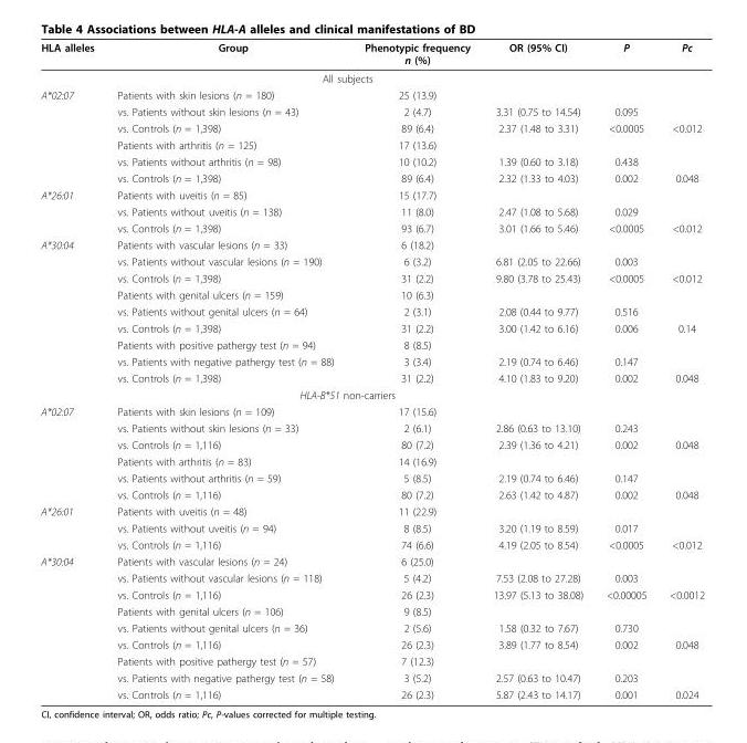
<table><thead><tr><td>HLA alleles</td><td>Group</td><td>Phenotypic frequency n (%)</td><td>OR (95% CI)</td><td>P</td><td>Pc</td></tr></thead><tbody><tr><td colspan="6">All subjects</td></tr><tr><td rowspan="6">A*02:07</td><td>Patients with skin lesions (n = 180)</td><td>25 (13.9)</td><td></td><td></td><td></td></tr><tr><td>vs. Patients without skin lesions (n = 43)</td><td>2 (4.7)</td><td>3.31 (0.75 to 14.54)</td><td>0.095</td><td></td></tr><tr><td>vs. Controls (n = 1,398)</td><td>89 (6.4)</td><td>2.37 (1.48 to 3.31)</td><td>&lt;0.0005</td><td>&lt;0.012</td></tr><tr><td>Patients with arthritis (n = 125)</td><td>17 (13.6)</td><td></td><td></td><td></td></tr><tr><td>vs. Patients without arthritis (n = 98)</td><td>10 (10.2)</td><td>1.39 (0.60 to 3.18)</td><td>0.438</td><td></td></tr><tr><td>vs. Controls (n = 1,398)</td><td>89 (6.4)</td><td>2.32 (1.33 to 4.03)</td><td>0.002</td><td>0.048</td></tr><tr><td rowspan="3">A*26:01</td><td>Patients with uveitis (n = 85)</td><td>15 (17.7)</td><td></td><td></td><td></td></tr><tr><td>vs. Patients without uveitis (n = 138)</td><td>11 (8.0)</td><td>2.47 (1.08 to 5.68)</td><td>0.029</td><td></td></tr><tr><td>vs. Controls (n = 1,398)</td><td>93 (6.7)</td><td>3.01 (1.66 to 5.46)</td><td>&lt;0.0005</td><td>&lt;0.012</td></tr><tr><td rowspan="9">A*30:04</td><td>Patients with vascular lesions (n = 33)</td><td>6 (18.2)</td><td></td><td></td><td></td></tr><tr><td>vs. Patients without vascular lesions (n = 190)</td><td>6 (3.2)</td><td>6.81 (2.05 to 22.66)</td><td>0.003</td><td></td></tr><tr><td>vs. Controls (n = 1,398)</td><td>31 (2.2)</td><td>9.80 (3.78 to 25.43)</td><td>&lt;0.0005</td><td>&lt;0.012</td></tr><tr><td>Patients with genital ulcers (n = 159)</td><td>10 (6.3)</td><td></td><td></td><td></td></tr><tr><td>vs. Patients without genital ulcers (n = 64)</td><td>2 (3.1)</td><td>2.08 (0.44 to 9.77)</td><td>0.516</td><td></td></tr><tr><td>vs. Controls (n = 1,398)</td><td>31 (2.2)</td><td>3.00 (1.42 to 6.16)</td><td>0.006</td><td>0.14</td></tr><tr><td>Patients with positive pathergy test (n = 94)</td><td>8 (8.5)</td><td></td><td></td><td></td></tr><tr><td>vs. Patients with negative pathergy test (n = 88)</td><td>3 (3.4)</td><td>2.19 (0.74 to 6.46)</td><td>0.147</td><td></td></tr><tr><td>vs. Controls (n = 1,398)</td><td>31 (2.2)</td><td>4.10 (1.83 to 9.20)</td><td>0.002</td><td>0.048</td></tr><tr><td colspan="6">HLA-B*51 non-carriers</td></tr><tr><td rowspan="6">A*02:07</td><td>Patients with skin lesions (n = 109)</td><td>17 (15.6)</td><td></td><td></td><td></td></tr><tr><td>vs. Patients without skin lesions (n = 33)</td><td>2 (6.1)</td><td>2.86 (0.63 to 13.10)</td><td>0.243</td><td></td></tr><tr><td>vs. Controls (n = 1,116)</td><td>80 (7.2)</td><td>2.39 (1.36 to 4.21)</td><td>0.002</td><td>0.048</td></tr><tr><td>Patients with arthritis (n = 83)</td><td>14 (16.9)</td><td></td><td></td><td></td></tr><tr><td>vs. Patients without arthritis (n = 59)</td><td>5 (8.5)</td><td>2.19 (0.74 to 6.46)</td><td>0.147</td><td></td></tr><tr><td>vs. Controls (n = 1,116)</td><td>80 (7.2)</td><td>2.63 (1.42 to 4.87)</td><td>0.002</td><td>0.048</td></tr><tr><td rowspan="3">A*26:01</td><td>Patients with uveitis (n = 48)</td><td>11 (22.9)</td><td></td><td></td><td></td></tr><tr><td>vs. Patients without uveitis (n = 94)</td><td>8 (8.5)</td><td>3.20 (1.19 to 8.59)</td><td>0.017</td><td></td></tr><tr><td>vs. Controls (n = 1,116)</td><td>74 (6.6)</td><td>4.19 (2.05 to 8.54)</td><td>&lt;0.0005</td><td>&lt;0.012</td></tr><tr><td rowspan="9">A*30:04</td><td>Patients with vascular lesions (n = 24)</td><td>6 (25.0)</td><td></td><td></td><td></td></tr><tr><td>vs. Patients without vascular lesions (n = 118)</td><td>5 (4.2)</td><td>7.53 (2.08 to 27.28)</td><td>0.003</td><td></td></tr><tr><td>vs. Controls (n = 1,116)</td><td>26 (2.3)</td><td>13.97 (5.13 to 38.08)</td><td>&lt;0.00005</td><td>&lt;0.0012</td></tr><tr><td>Patients with genital ulcers (n = 106)</td><td>9 (8.5)</td><td></td><td></td><td></td></tr><tr><td>vs. Patients without genital ulcers (n = 36)</td><td>2 (5.6)</td><td>1.58 (0.32 to 7.67)</td><td>0.730</td><td></td></tr><tr><td>vs. Controls (n = 1,116)</td><td>26 (2.3)</td><td>3.89 (1.77 to 8.54)</td><td>0.002</td><td>0.048</td></tr><tr><td>Patients with positive pathergy test (n = 57)</td><td>7 (12.3)</td><td></td><td></td><td></td></tr><tr><td>vs. Patients with negative pathergy test (n = 58)</td><td>3 (5.2)</td><td>2.57 (0.63 to 10.47)</td><td>0.203</td><td></td></tr><tr><td>vs. Controls (n = 1,116)</td><td>26 (2.3)</td><td>5.87 (2.43 to 14.17)</td><td>0.001</td><td>0.024</td></tr></tbody></table>